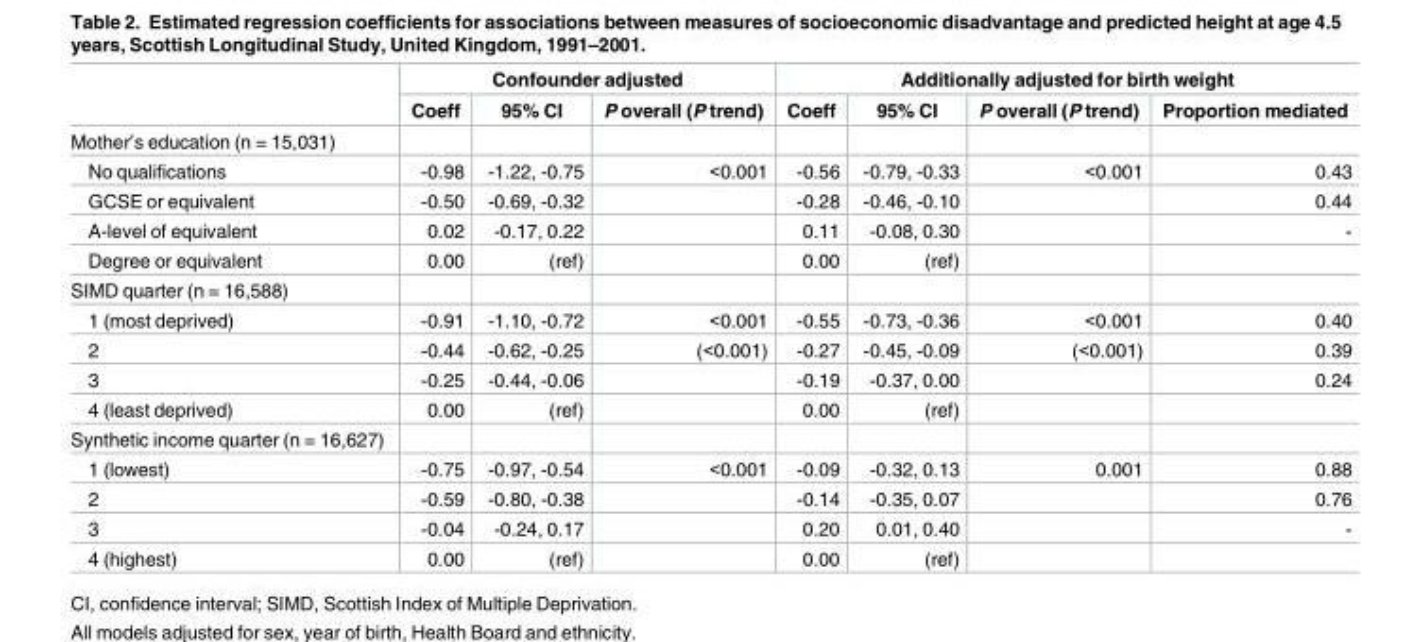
<table><thead><tr><td rowspan="2"></td><td colspan="3">Confounder adjusted</td><td colspan="4">Additionally adjusted for birth weight</td></tr><tr><td>Coeff</td><td>95% CI</td><td>P overall (P trend)</td><td>Coeff</td><td>95% CI</td><td>P overall (P trend)</td><td>Proportion mediated</td></tr></thead><tbody><tr><td colspan="8">Mother’s education (n = 15,031)</td></tr><tr><td>No qualifications</td><td>-0.98</td><td>-1.22, -0.75</td><td>&lt;0.001</td><td>-0.56</td><td>-0.79, -0.33</td><td>&lt;0.001</td><td>0.43</td></tr><tr><td>GCSE or equivalent</td><td>-0.50</td><td>-0.69, -0.32</td><td></td><td>-0.28</td><td>-0.46, -0.10</td><td></td><td>0.44</td></tr><tr><td>A-level of equivalent</td><td>0.02</td><td>-0.17, 0.22</td><td></td><td>0.11</td><td>-0.08, 0.30</td><td></td><td>-</td></tr><tr><td>Degree or equivalent</td><td>0.00</td><td>(ref)</td><td></td><td>0.00</td><td>(ref)</td><td></td><td></td></tr><tr><td colspan="8">SIMD quarter (n = 16,588)</td></tr><tr><td>1 (most deprived)</td><td>-0.91</td><td>-1.10, -0.72</td><td>&lt;0.001</td><td>-0.55</td><td>-0.73, -0.36</td><td>&lt;0.001</td><td>0.40</td></tr><tr><td>2</td><td>-0.44</td><td>-0.62, -0.25</td><td>(&lt;0.001)</td><td>-0.27</td><td>-0.45, -0.09</td><td>(&lt;0.001)</td><td>0.39</td></tr><tr><td>3</td><td>-0.25</td><td>-0.44, -0.06</td><td></td><td>-0.19</td><td>-0.37, 0.00</td><td></td><td>0.24</td></tr><tr><td>4 (least deprived)</td><td>0.00</td><td>(ref)</td><td></td><td>0.00</td><td>(ref)</td><td></td><td></td></tr><tr><td colspan="8">Synthetic income quarter (n = 16,627)</td></tr><tr><td>1 (lowest)</td><td>-0.75</td><td>-0.97, -0.54</td><td>&lt;0.001</td><td>-0.09</td><td>-0.32, 0.13</td><td>0.001</td><td>0.88</td></tr><tr><td>2</td><td>-0.59</td><td>-0.80, -0.38</td><td></td><td>-0.14</td><td>-0.35, 0.07</td><td></td><td>0.76</td></tr><tr><td>3</td><td>-0.04</td><td>-0.24, 0.17</td><td></td><td>0.20</td><td>0.01, 0.40</td><td></td><td>-</td></tr><tr><td>4 (highest)</td><td>0.00</td><td>(ref)</td><td></td><td>0.00</td><td>(ref)</td><td></td><td></td></tr></tbody></table>